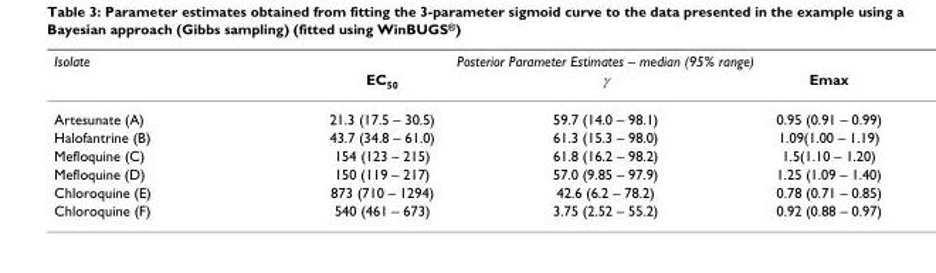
<table><thead><tr><td rowspan="2">Isolate</td><td colspan="3">Posterior Parameter Estimates – median (95% range)</td></tr><tr><td>EC<sub>50</sub></td><td>γ</td><td>Emax</td></tr></thead><tbody><tr><td>Artesunate (A)</td><td>21.3 (17.5 – 30.5)</td><td>59.7 (14.0 – 98.1)</td><td>0.95 (0.91 – 0.99)</td></tr><tr><td>Halofantrine (B)</td><td>43.7 (34.8 – 61.0)</td><td>61.3 (15.3 – 98.0)</td><td>1.09(1.00 – 1.19)</td></tr><tr><td>Mefloquine (C)</td><td>154 (123 – 215)</td><td>61.8 (16.2 – 98.2)</td><td>1.5(1.10 – 1.20)</td></tr><tr><td>Mefloquine (D)</td><td>150 (119 – 217)</td><td>57.0 (9.85 – 97.9)</td><td>1.25 (1.09 – 1.40)</td></tr><tr><td>Chloroquine (E)</td><td>873 (710 – 1294)</td><td>42.6 (6.2 – 78.2)</td><td>0.78 (0.71 – 0.85)</td></tr><tr><td>Chloroquine (F)</td><td>540 (461 – 673)</td><td>3.75 (2.52 – 55.2)</td><td>0.92 (0.88 – 0.97)</td></tr></tbody></table>